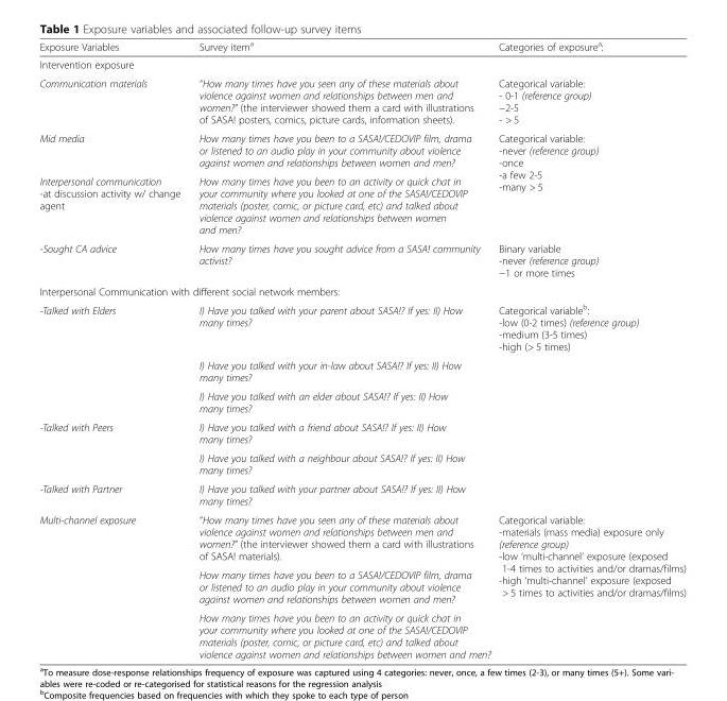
<table><thead><tr><td>Exposure Variables</td><td>Survey item<sup>a</sup></td><td>Categories of exposure<sup>a</sup>:</td></tr></thead><tbody><tr><td colspan="3">Intervention exposure</td></tr><tr><td>Communication materials</td><td>“How many times have you seen any of these materials about violence against women and relationships between men and women?” (the interviewer showed them a card with illustrations of SASA! posters, comics, picture cards, information sheets).</td><td>Categorical variable: - 0-1 (reference group) −2-5 - &gt; 5</td></tr><tr><td>Mid media</td><td>How many times have you been to a SASA!/CEDOVIP film, drama or listened to an audio play in your community about violence against women and relationships between women and men?</td><td rowspan="2">Categorical variable: -never (reference group) -once -a few 2-5 -many &gt; 5</td></tr><tr><td>Interpersonal communication -at discussion activity w/ change agent</td><td>How many times have you been to an activity or quick chat in your community where you looked at one of the SASA!/CEDOVIP materials (poster, comic, or picture card, etc) and talked about violence against women and relationships between women and men?</td></tr><tr><td>-Sought CA advice</td><td>How many times have you sought advice from a SASA! community activist?</td><td>Binary variable -never (reference group) −1 or more times</td></tr><tr><td colspan="3">Interpersonal Communication with different social network members:</td></tr><tr><td rowspan="3">-Talked with Elders</td><td>I) Have you talked with your parent about SASA!? If yes: II) How many times?</td><td>Categorical variable<sup>b</sup>: -low (0-2 times) (reference group) -medium (3-5 times) -high (&gt; 5 times)</td></tr><tr><td>I) Have you talked with your in-law about SASA!? If yes: II) How many times?</td><td></td></tr><tr><td>I) Have you talked with an elder about SASA!? If yes: II) How many times?</td><td></td></tr><tr><td rowspan="2">-Talked with Peers</td><td>I) Have you talked with a friend about SASA!? If yes: II) How many times?</td><td></td></tr><tr><td>I) Have you talked with a neighbour about SASA!? If yes: II) How many times?</td><td></td></tr><tr><td>-Talked with Partner</td><td>I) Have you talked with your partner about SASA!? If yes: II) How many times?</td><td></td></tr><tr><td rowspan="3">Multi-channel exposure</td><td>“How many times have you seen any of these materials about violence against women and relationships between men and women?” (the interviewer showed them a card with illustrations of SASA! materials).</td><td rowspan="3">Categorical variable: -materials (mass media) exposure only (reference group) -low ‘multi-channel’ exposure (exposed 1-4 times to activities and/or dramas/films) -high ‘multi-channel’ exposure (exposed &gt; 5 times to activities and/or dramas/films)</td></tr><tr><td>How many times have you been to a SASA!/CEDOVIP film, drama or listened to an audio play in your community about violence against women and relationships between women and men?</td></tr><tr><td>How many times have you been to an activity or quick chat in your community where you looked at one of the SASA!/CEDOVIP materials (poster, comic, or picture card, etc) and talked about violence against women and relationships between women and men?</td></tr></tbody></table>